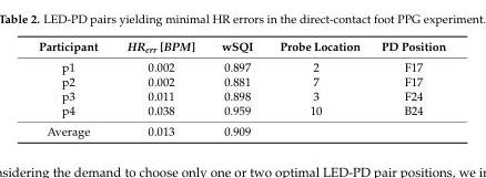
<table><thead><tr><td>Participant</td><td>HR<sub>err</sub> [BPM]</td><td>wSQI</td><td>Probe Location</td><td>PD Position</td></tr></thead><tbody><tr><td>p1</td><td>0.002</td><td>0.897</td><td>2</td><td>F17</td></tr><tr><td>p2</td><td>0.002</td><td>0.881</td><td>7</td><td>F17</td></tr><tr><td>p3</td><td>0.011</td><td>0.898</td><td>3</td><td>F24</td></tr><tr><td>p4</td><td>0.038</td><td>0.959</td><td>10</td><td>B24</td></tr><tr><td>Average</td><td>0.013</td><td>0.909</td><td></td><td></td></tr></tbody></table>